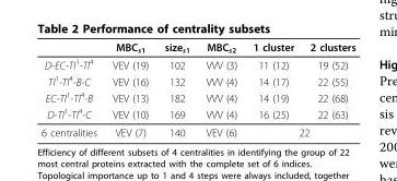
<table><thead><tr><td></td><td>MBC<sub>s1</sub></td><td>size<sub>s1</sub></td><td>MBC<sub>s2</sub></td><td>1 cluster</td><td>2 clusters</td></tr></thead><tbody><tr><td>D-EC-TI<sup>1</sup>-TI<sup>4</sup></td><td>VEV (19)</td><td>102</td><td>VVV (3)</td><td>11 (12)</td><td>19 (52)</td></tr><tr><td>TI<sup>1</sup>-TI<sup>4</sup>-B-C</td><td>VEV (16)</td><td>132</td><td>VVV (4)</td><td>14 (17)</td><td>22 (55)</td></tr><tr><td>EC-TI<sup>1</sup>-TI<sup>4</sup>-B</td><td>VEV (13)</td><td>182</td><td>VVV (4)</td><td>14 (19)</td><td>22 (68)</td></tr><tr><td>D-TI<sup>1</sup>-TI<sup>4</sup>-C</td><td>VEV (10)</td><td>169</td><td>VVV (4)</td><td>16 (25)</td><td>22 (63)</td></tr><tr><td>6 centralities</td><td>VEV (7)</td><td>140</td><td>VEV (6)</td><td colspan="2">22</td></tr></tbody></table>